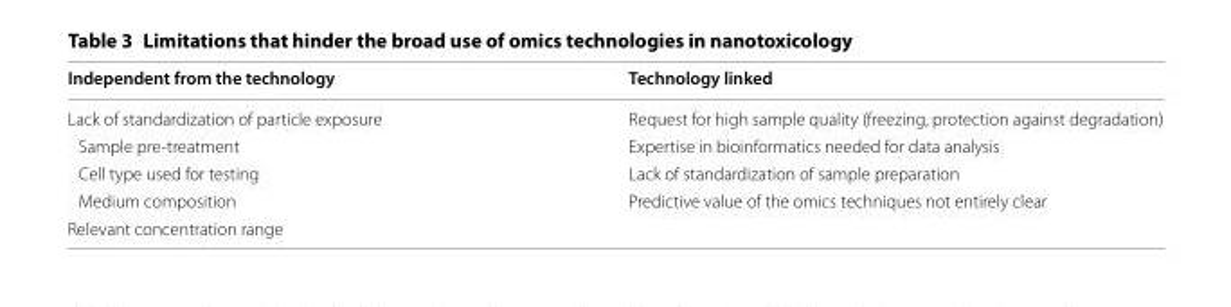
<table><thead><tr><td>Independent from the technology</td><td>Technology linked</td></tr></thead><tbody><tr><td>Lack of standardization of particle exposure</td><td>Request for high sample quality (freezing, protection against degradation)</td></tr><tr><td>Sample pre-treatment</td><td>Expertise in bioinformatics needed for data analysis</td></tr><tr><td>Cell type used for testing</td><td>Lack of standardization of sample preparation</td></tr><tr><td>Medium composition</td><td>Predictive value of the omics techniques not entirely clear</td></tr><tr><td>Relevant concentration range</td><td></td></tr></tbody></table>